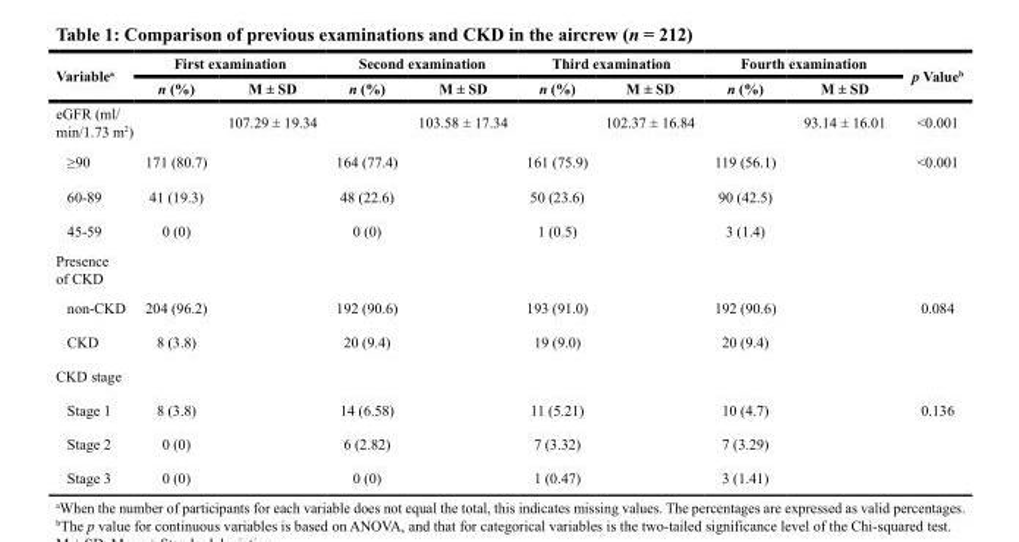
<table><thead><tr><td rowspan="2">Variable<sup>a</sup></td><td colspan="2">First examination</td><td colspan="2">Second examination</td><td colspan="2">Third examination</td><td colspan="2">Fourth examination</td><td rowspan="2">p Value<sup>b</sup></td></tr><tr><td>n (%)</td><td>M ± SD</td><td>n (%)</td><td>M ± SD</td><td>n (%)</td><td>M ± SD</td><td>n (%)</td><td>M ± SD</td></tr></thead><tbody><tr><td>eGFR (ml/ min/1.73 m<sup>2</sup>)</td><td></td><td>107.29 ± 19.34</td><td></td><td>103.58 ± 17.34</td><td></td><td>102.37 ± 16.84</td><td></td><td>93.14 ± 16.01</td><td>&lt;0.001</td></tr><tr><td>≥90</td><td>171 (80.7)</td><td></td><td>164 (77.4)</td><td></td><td>161 (75.9)</td><td></td><td>119 (56.1)</td><td></td><td>&lt;0.001</td></tr><tr><td>60-89</td><td>41 (19.3)</td><td></td><td>48 (22.6)</td><td></td><td>50 (23.6)</td><td></td><td>90 (42.5)</td><td></td><td></td></tr><tr><td>45-59</td><td>0 (0)</td><td></td><td>0 (0)</td><td></td><td>1 (0.5)</td><td></td><td>3 (1.4)</td><td></td><td></td></tr><tr><td colspan="10">Presence of CKD</td></tr><tr><td>non-CKD</td><td>204 (96.2)</td><td></td><td>192 (90.6)</td><td></td><td>193 (91.0)</td><td></td><td>192 (90.6)</td><td></td><td>0.084</td></tr><tr><td>CKD</td><td>8 (3.8)</td><td></td><td>20 (9.4)</td><td></td><td>19 (9.0)</td><td></td><td>20 (9.4)</td><td></td><td></td></tr><tr><td colspan="10">CKD stage</td></tr><tr><td>Stage 1</td><td>8 (3.8)</td><td></td><td>14 (6.58)</td><td></td><td>11 (5.21)</td><td></td><td>10 (4.7)</td><td></td><td>0.136</td></tr><tr><td>Stage 2</td><td>0 (0)</td><td></td><td>6 (2.82)</td><td></td><td>7 (3.32)</td><td></td><td>7 (3.29)</td><td></td><td></td></tr><tr><td>Stage 3</td><td>0 (0)</td><td></td><td>0 (0)</td><td></td><td>1 (0.47)</td><td></td><td>3 (1.41)</td><td></td><td></td></tr></tbody></table>